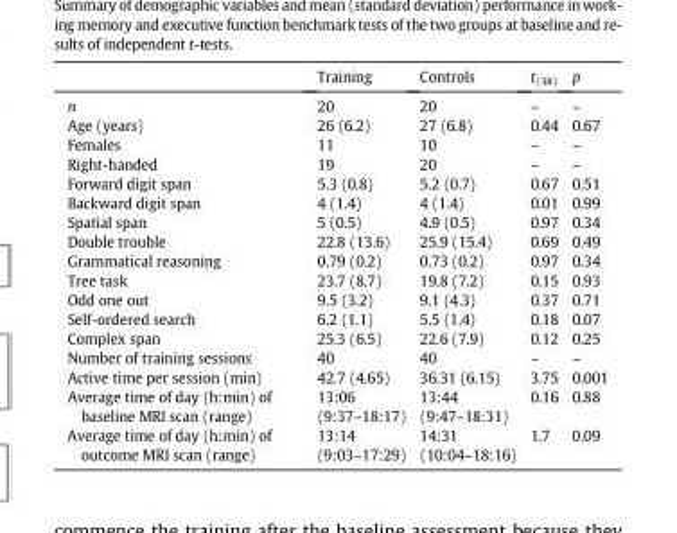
<table><thead><tr><td></td><td>Training</td><td>Controls</td><td>t<sub>(38)</sub></td><td>p</td></tr></thead><tbody><tr><td>n</td><td>20</td><td>20</td><td>–</td><td>–</td></tr><tr><td>Age (years)</td><td>26 (6.2)</td><td>27 (6.8)</td><td>0.44</td><td>0.67</td></tr><tr><td>Females</td><td>11</td><td>10</td><td>–</td><td>–</td></tr><tr><td>Right-handed</td><td>19</td><td>20</td><td>–</td><td>–</td></tr><tr><td>Forward digit span</td><td>5.3 (0.8)</td><td>5.2 (0.7)</td><td>0.67</td><td>0.51</td></tr><tr><td>Backward digit span</td><td>4 (1.4)</td><td>4 (1.4)</td><td>0.01</td><td>0.99</td></tr><tr><td>Spatial span</td><td>5 (0.5)</td><td>4.9 (0.5)</td><td>0.97</td><td>0.34</td></tr><tr><td>Double trouble</td><td>22.8 (13.6)</td><td>25.9 (15.4)</td><td>0.69</td><td>0.49</td></tr><tr><td>Grammatical reasoning</td><td>0.79 (0.2)</td><td>0.73 (0.2)</td><td>0.97</td><td>0.34</td></tr><tr><td>Tree task</td><td>23.7 (8.7)</td><td>19.8 (7.2)</td><td>0.15</td><td>0.93</td></tr><tr><td>Odd one out</td><td>9.5 (3.2)</td><td>9.1 (4.3)</td><td>0.37</td><td>0.71</td></tr><tr><td>Self-ordered search</td><td>6.2 (1.1)</td><td>5.5 (1.4)</td><td>0.18</td><td>0.07</td></tr><tr><td>Complex span</td><td>25.3 (6.5)</td><td>22.6 (7.9)</td><td>0.12</td><td>0.25</td></tr><tr><td>Number of training sessions</td><td>40</td><td>40</td><td>–</td><td>–</td></tr><tr><td>Active time per session (min)</td><td>42.7 (4.65)</td><td>36.31 (6.15)</td><td>3.75</td><td>0.001</td></tr><tr><td>Average time of day (h:min) of baseline MRI scan (range)</td><td>13:06 (9:37–18:17)</td><td>13:44 (9:47–18:31)</td><td>0.16</td><td>0.88</td></tr><tr><td>Average time of day (h:min) of outcome MRI scan (range)</td><td>13:14 (9:03–17:29)</td><td>14:31 (10:04–18:16)</td><td>1.7</td><td>0.09</td></tr></tbody></table>